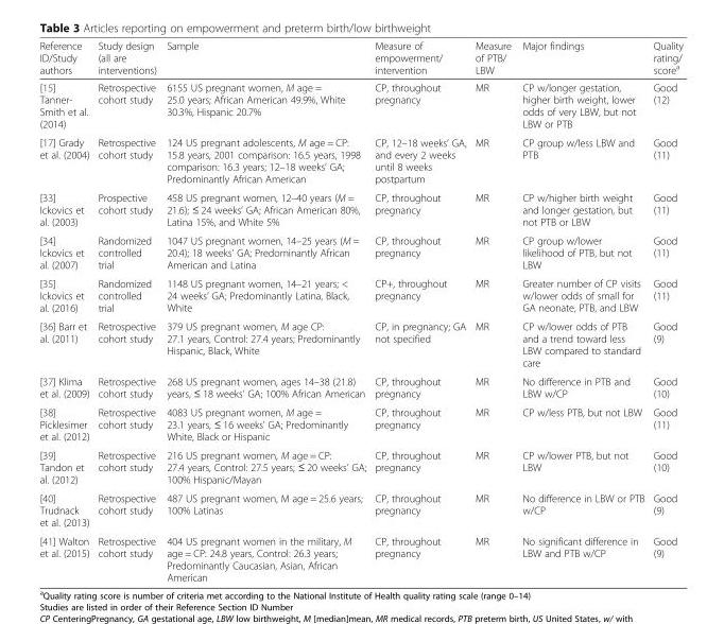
<table><thead><tr><td>Reference ID/Study authors</td><td>Study design (all are interventions)</td><td>Sample</td><td>Measure of empowerment/ intervention</td><td>Measure of PTB/ LBW</td><td>Major findings</td><td>Quality rating/ score<sup>a</sup></td></tr></thead><tbody><tr><td>[15] Tanner- Smith et al. (2014)</td><td>Retrospective cohort study</td><td>6155 US pregnant women, M age = 25.0 years; African American 49.9%, White 30.3%, Hispanic 20.7%</td><td>CP, throughout pregnancy</td><td>MR</td><td>CP w/longer gestation, higher birth weight, lower odds of very LBW, but not LBW or PTB</td><td>Good (12)</td></tr><tr><td>[17] Grady et al. (2004)</td><td>Retrospective cohort study</td><td>124 US pregnant adolescents, M age = CP: 15.8 years, 2001 comparison: 16.5 years, 1998 comparison: 16.3 years; 12–18 weeks’ GA; Predominantly African American</td><td>CP, 12–18 weeks’ GA, and every 2 weeks until 8 weeks postpartum</td><td>MR</td><td>CP group w/less LBW and PTB</td><td>Good (11)</td></tr><tr><td>[33] Ickovics et al. (2003)</td><td>Prospective cohort study</td><td>458 US pregnant women, 12–40 years (M = 21.6); ≤ 24 weeks’ GA; African American 80%, Latina 15%, and White 5%</td><td>CP, throughout pregnancy</td><td>MR</td><td>CP w/higher birth weight and longer gestation, but not PTB or LBW</td><td>Good (11)</td></tr><tr><td>[34] Ickovics et al. (2007)</td><td>Randomized controlled trial</td><td>1047 US pregnant women, 14–25 years (M = 20.4); 18 weeks’ GA; Predominantly African American and Latina</td><td>CP, throughout pregnancy</td><td>MR</td><td>CP group w/lower likelihood of PTB, but not LBW</td><td>Good (11)</td></tr><tr><td>[35] Ickovics et al. (2016)</td><td>Randomized controlled trial</td><td>1148 US pregnant women, 14–21 years; &lt; 24 weeks’ GA; Predominantly Latina, Black, White</td><td>CP+, throughout pregnancy</td><td>MR</td><td>Greater number of CP visits w/lower odds of small for GA neonate, PTB, and LBW</td><td>Good (11)</td></tr><tr><td>[36] Barr et al. (2011)</td><td>Retrospective cohort study</td><td>379 US pregnant women, M age CP: 27.1 years, Control: 27.4 years; Predominantly Hispanic, Black, White</td><td>CP, in pregnancy; GA not specified</td><td>MR</td><td>CP w/lower odds of PTB and a trend toward less LBW compared to standard care</td><td>Good (9)</td></tr><tr><td>[37] Klima et al. (2009)</td><td>Retrospective cohort study</td><td>268 US pregnant women, ages 14–38 (21.8) years, ≤ 18 weeks’ GA; 100% African American</td><td>CP, throughout pregnancy</td><td>MR</td><td>No difference in PTB and LBW w/CP</td><td>Good (10)</td></tr><tr><td>[38] Picklesimer et al. (2012)</td><td>Retrospective cohort study</td><td>4083 US pregnant women, M age = 23.1 years, ≤ 16 weeks’ GA; Predominantly White, Black or Hispanic</td><td>CP, throughout pregnancy</td><td>MR</td><td>CP w/less PTB, but not LBW</td><td>Good (11)</td></tr><tr><td>[39] Tandon et al. (2012)</td><td>Retrospective cohort study</td><td>216 US pregnant women, M age = CP: 27.4 years, Control: 27.5 years; ≤ 20 weeks’ GA; 100% Hispanic/Mayan</td><td>CP, throughout pregnancy</td><td>MR</td><td>CP w/lower PTB, but not LBW</td><td>Good (10)</td></tr><tr><td>[40] Trudnack et al. (2013)</td><td>Retrospective cohort study</td><td>487 US pregnant women, M age = 25.6 years; 100% Latinas</td><td>CP, throughout pregnancy</td><td>MR</td><td>No difference in LBW or PTB w/CP</td><td>Good (9)</td></tr><tr><td>[41] Walton et al. (2015)</td><td>Retrospective cohort study</td><td>404 US pregnant women in the military, M age = CP: 24.8 years, Control: 26.3 years; Predominantly Caucasian, Asian, African American</td><td>CP, throughout pregnancy</td><td>MR</td><td>No significant difference in LBW and PTB w/CP</td><td>Good (9)</td></tr></tbody></table>